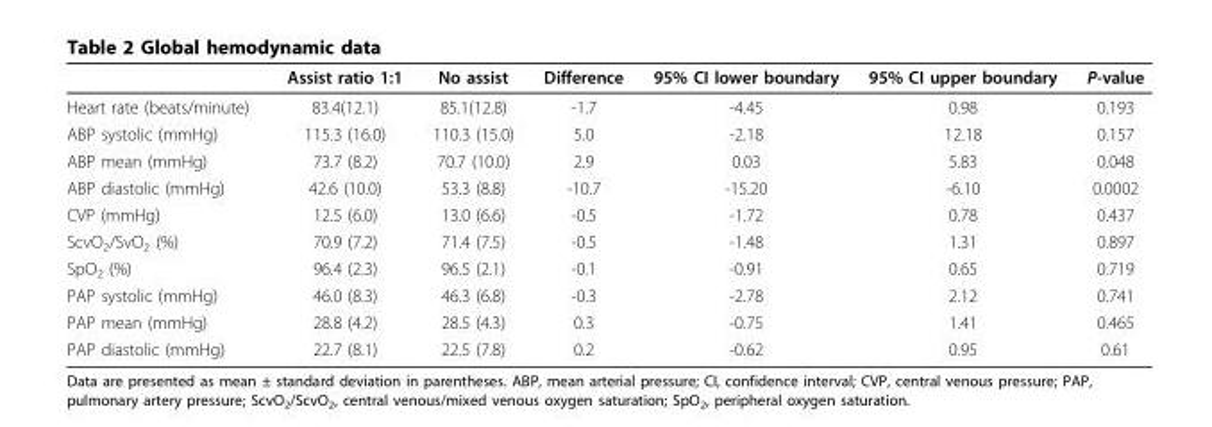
<table><thead><tr><td></td><td>Assist ratio 1:1</td><td>No assist</td><td>Difference</td><td>95% CI lower boundary</td><td>95% CI upper boundary</td><td>P-value</td></tr></thead><tbody><tr><td>Heart rate (beats/minute)</td><td>83.4(12.1)</td><td>85.1(12.8)</td><td>-1.7</td><td>-4.45</td><td>0.98</td><td>0.193</td></tr><tr><td>ABP systolic (mmHg)</td><td>115.3 (16.0)</td><td>110.3 (15.0)</td><td>5.0</td><td>-2.18</td><td>12.18</td><td>0.157</td></tr><tr><td>ABP mean (mmHg)</td><td>73.7 (8.2)</td><td>70.7 (10.0)</td><td>2.9</td><td>0.03</td><td>5.83</td><td>0.048</td></tr><tr><td>ABP diastolic (mmHg)</td><td>42.6 (10.0)</td><td>53.3 (8.8)</td><td>-10.7</td><td>-15.20</td><td>-6.10</td><td>0.0002</td></tr><tr><td>CVP (mmHg)</td><td>12.5 (6.0)</td><td>13.0 (6.6)</td><td>-0.5</td><td>-1.72</td><td>0.78</td><td>0.437</td></tr><tr><td>ScvO<sub>2</sub>/SvO<sub>2</sub> (%)</td><td>70.9 (7.2)</td><td>71.4 (7.5)</td><td>-0.5</td><td>-1.48</td><td>1.31</td><td>0.897</td></tr><tr><td>SpO<sub>2</sub> (%)</td><td>96.4 (2.3)</td><td>96.5 (2.1)</td><td>-0.1</td><td>-0.91</td><td>0.65</td><td>0.719</td></tr><tr><td>PAP systolic (mmHg)</td><td>46.0 (8.3)</td><td>46.3 (6.8)</td><td>-0.3</td><td>-2.78</td><td>2.12</td><td>0.741</td></tr><tr><td>PAP mean (mmHg)</td><td>28.8 (4.2)</td><td>28.5 (4.3)</td><td>0.3</td><td>-0.75</td><td>1.41</td><td>0.465</td></tr><tr><td>PAP diastolic (mmHg)</td><td>22.7 (8.1)</td><td>22.5 (7.8)</td><td>0.2</td><td>-0.62</td><td>0.95</td><td>0.61</td></tr></tbody></table>